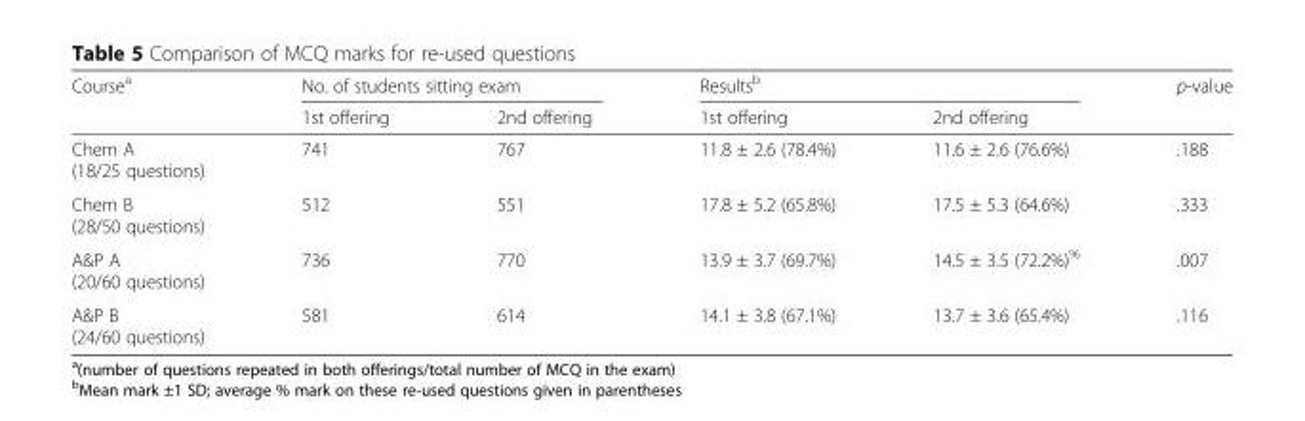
<table><thead><tr><td rowspan="2">Course<sup>a</sup></td><td colspan="2">No. of students sitting exam</td><td colspan="2">Results<sup>b</sup></td><td rowspan="2">p-value</td></tr><tr><td>1st offering</td><td>2nd offering</td><td>1st offering</td><td>2nd offering</td></tr></thead><tbody><tr><td>Chem A (18/25 questions)</td><td>741</td><td>767</td><td>11.8 ± 2.6 (78.4%)</td><td>11.6 ± 2.6 (76.6%)</td><td>.188</td></tr><tr><td>Chem B (28/50 questions)</td><td>512</td><td>551</td><td>17.8 ± 5.2 (65.8%)</td><td>17.5 ± 5.3 (64.6%)</td><td>.333</td></tr><tr><td>A&amp;P A (20/60 questions)</td><td>736</td><td>770</td><td>13.9 ± 3.7 (69.7%)</td><td>14.5 ± 3.5 (72.2%)<sup>%</sup></td><td>.007</td></tr><tr><td>A&amp;P B (24/60 questions)</td><td>581</td><td>614</td><td>14.1 ± 3.8 (67.1%)</td><td>13.7 ± 3.6 (65.4%)</td><td>.116</td></tr></tbody></table>